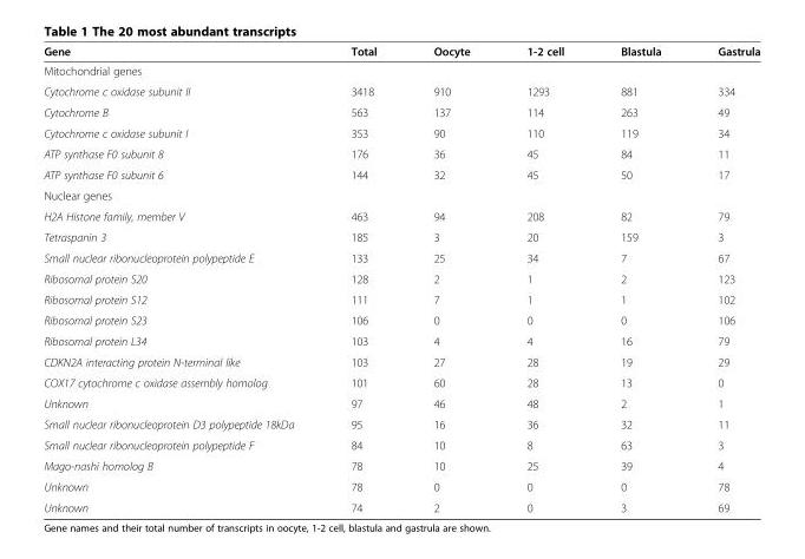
<table><thead><tr><td>Gene</td><td>Total</td><td>Oocyte</td><td>1-2 cell</td><td>Blastula</td><td>Gastrula</td></tr></thead><tbody><tr><td colspan="6">Mitochondrial genes</td></tr><tr><td>Cytochrome c oxidase subunit II</td><td>3418</td><td>910</td><td>1293</td><td>881</td><td>334</td></tr><tr><td>Cytochrome B</td><td>563</td><td>137</td><td>114</td><td>263</td><td>49</td></tr><tr><td>Cytochrome c oxidase subunit I</td><td>353</td><td>90</td><td>110</td><td>119</td><td>34</td></tr><tr><td>ATP synthase F0 subunit 8</td><td>176</td><td>36</td><td>45</td><td>84</td><td>11</td></tr><tr><td>ATP synthase F0 subunit 6</td><td>144</td><td>32</td><td>45</td><td>50</td><td>17</td></tr><tr><td colspan="6">Nuclear genes</td></tr><tr><td>H2A Histone family, member V</td><td>463</td><td>94</td><td>208</td><td>82</td><td>79</td></tr><tr><td>Tetraspanin 3</td><td>185</td><td>3</td><td>20</td><td>159</td><td>3</td></tr><tr><td>Small nuclear ribonucleoprotein polypeptide E</td><td>133</td><td>25</td><td>34</td><td>7</td><td>67</td></tr><tr><td>Ribosomal protein S20</td><td>128</td><td>2</td><td>1</td><td>2</td><td>123</td></tr><tr><td>Ribosomal protein S12</td><td>111</td><td>7</td><td>1</td><td>1</td><td>102</td></tr><tr><td>Ribosomal protein S23</td><td>106</td><td>0</td><td>0</td><td>0</td><td>106</td></tr><tr><td>Ribosomal protein L34</td><td>103</td><td>4</td><td>4</td><td>16</td><td>79</td></tr><tr><td>CDKN2A interacting protein N-terminal like</td><td>103</td><td>27</td><td>28</td><td>19</td><td>29</td></tr><tr><td>COX17 cytochrome c oxidase assembly homolog</td><td>101</td><td>60</td><td>28</td><td>13</td><td>0</td></tr><tr><td>Unknown</td><td>97</td><td>46</td><td>48</td><td>2</td><td>1</td></tr><tr><td>Small nuclear ribonucleoprotein D3 polypeptide 18kDa</td><td>95</td><td>16</td><td>36</td><td>32</td><td>11</td></tr><tr><td>Small nuclear ribonucleoprotein polypeptide F</td><td>84</td><td>10</td><td>8</td><td>63</td><td>3</td></tr><tr><td>Mago-nashi homolog B</td><td>78</td><td>10</td><td>25</td><td>39</td><td>4</td></tr><tr><td>Unknown</td><td>78</td><td>0</td><td>0</td><td>0</td><td>78</td></tr><tr><td>Unknown</td><td>74</td><td>2</td><td>0</td><td>3</td><td>69</td></tr></tbody></table>